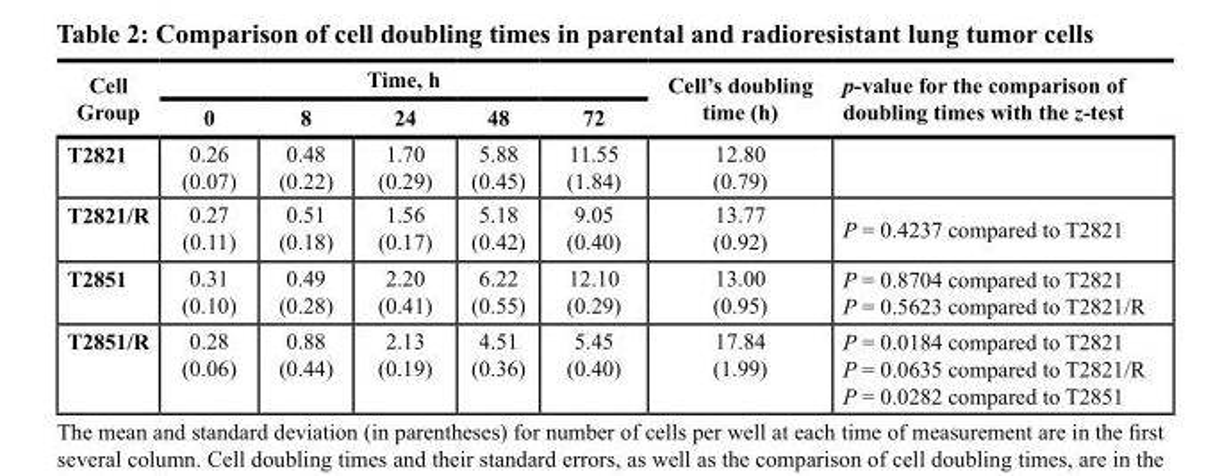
<table><thead><tr><td rowspan="2">cell Group</td><td colspan="5">time, h</td><td rowspan="2">cell’s doubling time (h)</td><td rowspan="2">p-value for the comparison of doubling times with the z-test</td></tr><tr><td>0</td><td>8</td><td>24</td><td>48</td><td>72</td></tr></thead><tbody><tr><td>t2821</td><td>0.26 (0.07)</td><td>0.48 (0.22)</td><td>1.70 (0.29)</td><td>5.88 (0.45)</td><td>11.55 (1.84)</td><td>12.80 (0.79)</td><td></td></tr><tr><td>t2821/r</td><td>0.27 (0.11)</td><td>0.51 (0.18)</td><td>1.56 (0.17)</td><td>5.18 (0.42)</td><td>9.05 (0.40)</td><td>13.77 (0.92)</td><td>P = 0.4237 compared to T2821</td></tr><tr><td>t2851</td><td>0.31 (0.10)</td><td>0.49 (0.28)</td><td>2.20 (0.41)</td><td>6.22 (0.55)</td><td>12.10 (0.29)</td><td>13.00 (0.95)</td><td>P = 0.8704 compared to T2821 P = 0.5623 compared to T2821/R</td></tr><tr><td>t2851/r</td><td>0.28 (0.06)</td><td>0.88 (0.44)</td><td>2.13 (0.19)</td><td>4.51 (0.36)</td><td>5.45 (0.40)</td><td>17.84 (1.99)</td><td>P = 0.0184 compared to T2821 P = 0.0635 compared to T2821/R P = 0.0282 compared to T2851</td></tr></tbody></table>